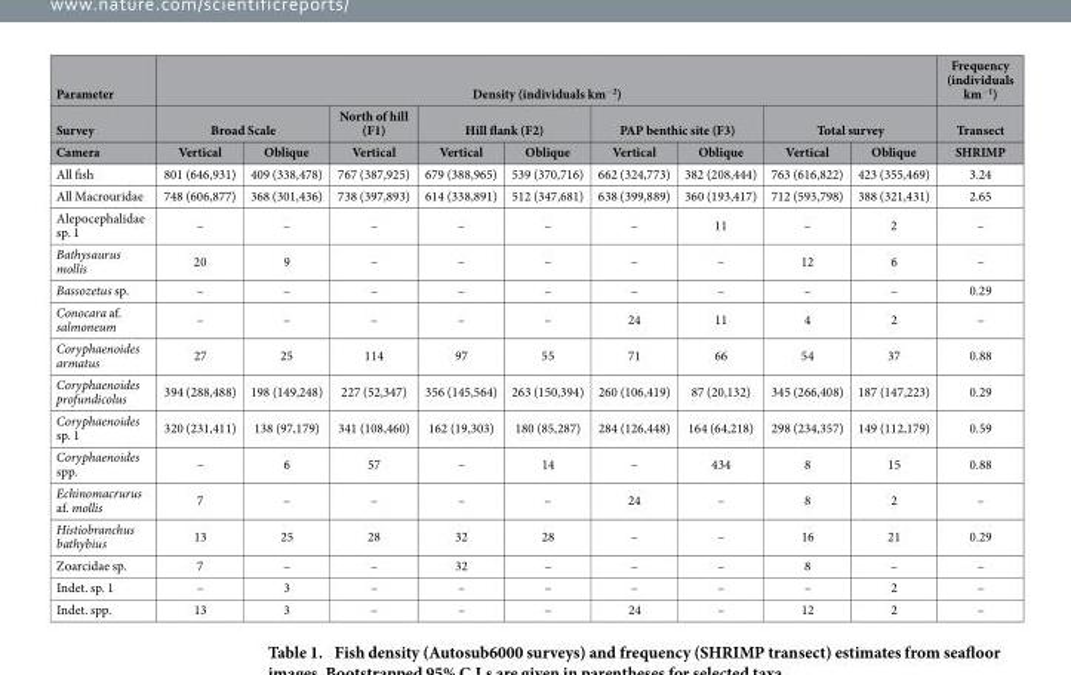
<table><thead><tr><td rowspan="3">Parameter Survey Camera</td><td colspan="9">Density (individuals km<sup>−2</sup>)</td><td rowspan="3">Frequency (individuals km<sup>−1</sup>) Transect SHRIMP</td></tr><tr><td colspan="2">Broad Scale</td><td rowspan="2">North of hill (F1) Vertical</td><td colspan="2">Hill flank (F2)</td><td colspan="2">PAP benthic site (F3)</td><td colspan="2">Total survey</td></tr><tr><td>Vertical</td><td>Oblique</td><td>Vertical</td><td>Oblique</td><td>Vertical</td><td>Oblique</td><td>Vertical</td><td>Oblique</td></tr></thead><tbody><tr><td>All fish</td><td>801 (646,931)</td><td>409 (338,478)</td><td>767 (387,925)</td><td>679 (388,965)</td><td>539 (370,716)</td><td>662 (324,773)</td><td>382 (208,444)</td><td>763 (616,822)</td><td>423 (355,469)</td><td>3.24</td></tr><tr><td>All Macrouridae</td><td>748 (606,877)</td><td>368 (301,436)</td><td>738 (397,893)</td><td>614 (338,891)</td><td>512 (347,681)</td><td>638 (399,889)</td><td>360 (193,417)</td><td>712 (593,798)</td><td>388 (321,431)</td><td>2.65</td></tr><tr><td>Alepocephalidae sp. 1</td><td>–</td><td>–</td><td>–</td><td>–</td><td>–</td><td>–</td><td>11</td><td>–</td><td>2</td><td>–</td></tr><tr><td>Bathysaurus mollis</td><td>20</td><td>9</td><td>–</td><td>–</td><td>–</td><td>–</td><td>–</td><td>12</td><td>6</td><td>–</td></tr><tr><td>Bassozetus sp.</td><td>–</td><td>–</td><td>–</td><td>–</td><td>–</td><td>–</td><td>–</td><td>–</td><td>–</td><td>0.29</td></tr><tr><td>Conocara af. salmoneum</td><td>–</td><td>–</td><td>–</td><td>–</td><td>–</td><td>24</td><td>11</td><td>4</td><td>2</td><td>–</td></tr><tr><td>Coryphaenoides armatus</td><td>27</td><td>25</td><td>114</td><td>97</td><td>55</td><td>71</td><td>66</td><td>54</td><td>37</td><td>0.88</td></tr><tr><td>Coryphaenoides profundicolus</td><td>394 (288,488)</td><td>198 (149,248)</td><td>227 (52,347)</td><td>356 (145,564)</td><td>263 (150,394)</td><td>260 (106,419)</td><td>87 (20,132)</td><td>345 (266,408)</td><td>187 (147,223)</td><td>0.29</td></tr><tr><td>Coryphaenoides sp. 1</td><td>320 (231,411)</td><td>138 (97,179)</td><td>341 (108,460)</td><td>162 (19,303)</td><td>180 (85,287)</td><td>284 (126,448)</td><td>164 (64,218)</td><td>298 (234,357)</td><td>149 (112,179)</td><td>0.59</td></tr><tr><td>Coryphaenoides spp.</td><td>–</td><td>6</td><td>57</td><td>–</td><td>14</td><td>–</td><td>434</td><td>8</td><td>15</td><td>0.88</td></tr><tr><td>Echinomacrurus af. mollis</td><td>7</td><td>–</td><td>–</td><td>–</td><td>–</td><td>24</td><td>–</td><td>8</td><td>2</td><td>–</td></tr><tr><td>Histiobranchus bathybius</td><td>13</td><td>25</td><td>28</td><td>32</td><td>28</td><td>–</td><td>–</td><td>16</td><td>21</td><td>0.29</td></tr><tr><td>Zoarcidae sp.</td><td>7</td><td>–</td><td>–</td><td>32</td><td>–</td><td>–</td><td>–</td><td>8</td><td>–</td><td>–</td></tr><tr><td>Indet. sp. 1</td><td>–</td><td>3</td><td>–</td><td>–</td><td>–</td><td>–</td><td>–</td><td>–</td><td>2</td><td>–</td></tr><tr><td>Indet. spp.</td><td>13</td><td>3</td><td>–</td><td>–</td><td>–</td><td>24</td><td>–</td><td>12</td><td>2</td><td>–</td></tr></tbody></table>